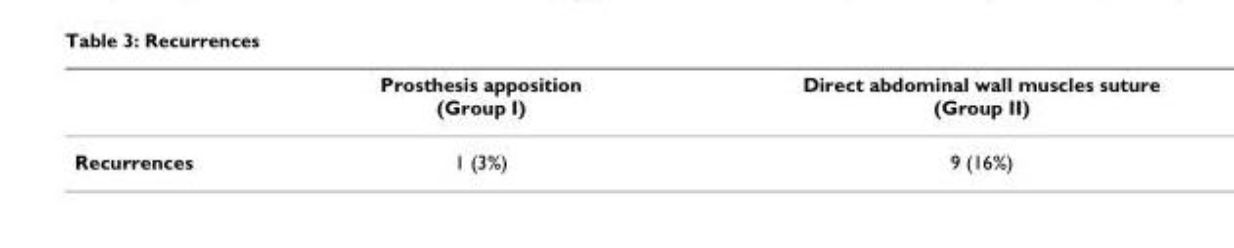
<table><thead><tr><td></td><td>Prosthesis apposition (Group I)</td><td>Direct abdominal wall muscles suture (Group II)</td></tr></thead><tbody><tr><td>Recurrences</td><td>1 (3%)</td><td>9 (16%)</td></tr></tbody></table>